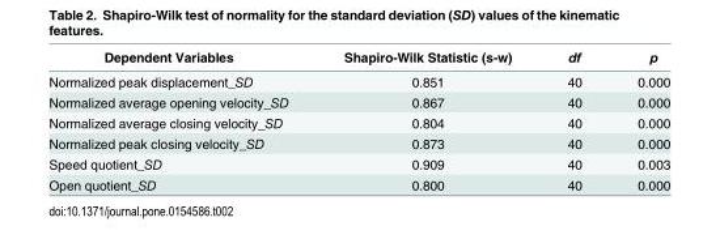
<table><thead><tr><td>Dependent Variables</td><td>Shapiro-Wilk Statistic (s-w)</td><td>df</td><td>p</td></tr></thead><tbody><tr><td>Normalized peak displacement_SD</td><td>0.851</td><td>40</td><td>0.000</td></tr><tr><td>Normalized average opening velocity_SD</td><td>0.867</td><td>40</td><td>0.000</td></tr><tr><td>Normalized average closing velocity_SD</td><td>0.804</td><td>40</td><td>0.000</td></tr><tr><td>Normalized peak closing velocity_SD</td><td>0.873</td><td>40</td><td>0.000</td></tr><tr><td>Speed quotient_SD</td><td>0.909</td><td>40</td><td>0.003</td></tr><tr><td>Open quotient_SD</td><td>0.800</td><td>40</td><td>0.000</td></tr></tbody></table>